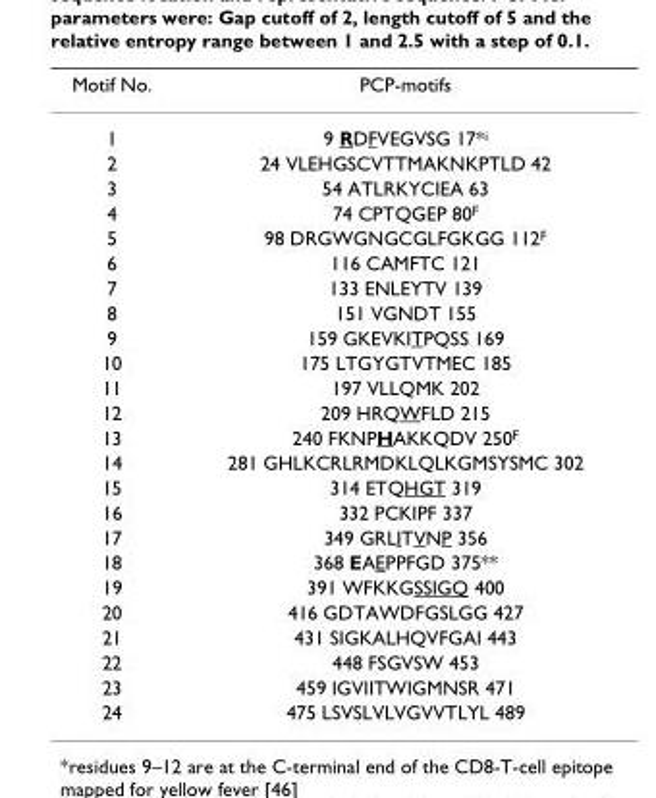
<table><thead><tr><td>Motif No.</td><td>PCP-motifs</td></tr></thead><tbody><tr><td>1</td><td>9 RDFVEGVSG 17*<sup>i</sup></td></tr><tr><td>2</td><td>24 VLEHGSCVTTMAKNKPTLD 42</td></tr><tr><td>3</td><td>54 ATLRKYCIEA 63</td></tr><tr><td>4</td><td>74 CPTQGEP 80<sup>F</sup></td></tr><tr><td>5</td><td>98 DRGWGNGCGLFGKGG 112<sup>F</sup></td></tr><tr><td>6</td><td>116 CAMFTC 121</td></tr><tr><td>7</td><td>133 ENLEYTV 139</td></tr><tr><td>8</td><td>151 VGNDT 155</td></tr><tr><td>9</td><td>159 GKEVKITPQSS 169</td></tr><tr><td>10</td><td>175 LTGYGTVTMEC 185</td></tr><tr><td>11</td><td>197 VLLQMK 202</td></tr><tr><td>12</td><td>209 HRQWFLD 215</td></tr><tr><td>13</td><td>240 FKNPHAKKQDV 250<sup>F</sup></td></tr><tr><td>14</td><td>281 GHLKCRLRMDKLQLKGMSYSMC 302</td></tr><tr><td>15</td><td>314 ETQHGT 319</td></tr><tr><td>16</td><td>332 PCKIPF 337</td></tr><tr><td>17</td><td>349 GRLITVNP 356</td></tr><tr><td>18</td><td>368 EAEPPFGD 375**</td></tr><tr><td>19</td><td>391 WFKKGSSIGQ 400</td></tr><tr><td>20</td><td>416 GDTAWDFGSLGG 427</td></tr><tr><td>21</td><td>431 SIGKALHQVFGAI 443</td></tr><tr><td>22</td><td>448 FSGVSW 453</td></tr><tr><td>23</td><td>459 IGVIITWIGMNSR 471</td></tr><tr><td>24</td><td>475 LSVSLVLVGVVTLYL 489</td></tr></tbody></table>